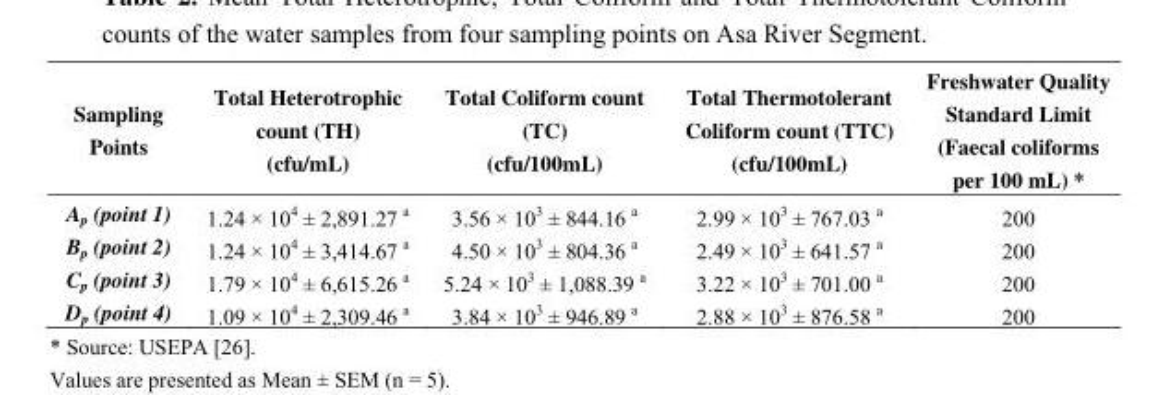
<table><thead><tr><td>Sampling Points</td><td>Total Heterotrophic count (TH) (cfu/mL)</td><td>Total Coliform count (TC) (cfu/100mL)</td><td>Total Thermotolerant Coliform count (TTC) (cfu/100mL)</td><td>Freshwater Quality Standard Limit (Faecal coliforms per 100 mL) *</td></tr></thead><tbody><tr><td>A<sub>p</sub> (point 1)</td><td>1.24 × 10<sup>4</sup> ± 2,891.27 <sup>a</sup></td><td>3.56 × 10<sup>3</sup> ± 844.16 <sup>a</sup></td><td>2.99 × 10<sup>3</sup> ± 767.03 <sup>a</sup></td><td>200</td></tr><tr><td>B<sub>p</sub> (point 2)</td><td>1.24 × 10<sup>4</sup> ± 3,414.67 <sup>a</sup></td><td>4.50 × 10<sup>3</sup> ± 804.36 <sup>a</sup></td><td>2.49 × 10<sup>3</sup> ± 641.57 <sup>a</sup></td><td>200</td></tr><tr><td>C<sub>p</sub> (point 3)</td><td>1.79 × 10<sup>4</sup> ± 6,615.26 <sup>a</sup></td><td>5.24 × 10<sup>3</sup> ± 1,088.39 <sup>a</sup></td><td>3.22 × 10<sup>3</sup> ± 701.00 <sup>a</sup></td><td>200</td></tr><tr><td>D<sub>p</sub> (point 4)</td><td>1.09 × 10<sup>4</sup> ± 2,309.46 <sup>a</sup></td><td>3.84 × 10<sup>3</sup> ± 946.89 <sup>a</sup></td><td>2.88 × 10<sup>3</sup> ± 876.58 <sup>a</sup></td><td>200</td></tr></tbody></table>